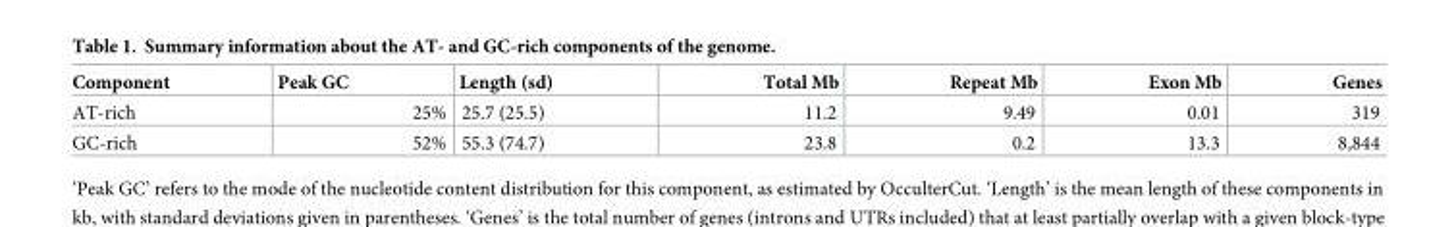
<table><thead><tr><td>Component</td><td>Peak GC</td><td>Length (sd)</td><td>Total Mb</td><td>Repeat Mb</td><td>Exon Mb</td><td>Genes</td></tr></thead><tbody><tr><td>AT-rich</td><td>25%</td><td>25.7 (25.5)</td><td>11.2</td><td>9.49</td><td>0.01</td><td>319</td></tr><tr><td>GC-rich</td><td>52%</td><td>55.3 (74.7)</td><td>23.8</td><td>0.2</td><td>13.3</td><td>8,844</td></tr></tbody></table>